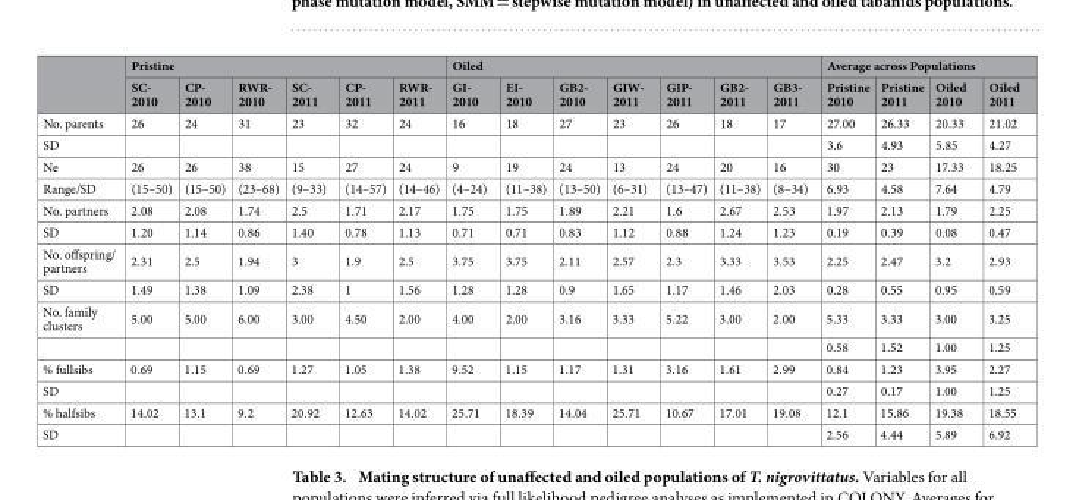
<table><thead><tr><td rowspan="2"></td><td colspan="6">Pristine</td><td colspan="7">Oiled</td><td colspan="4">Average across Populations</td></tr><tr><td>SC- 2010</td><td>CP- 2010</td><td>RWR- 2010</td><td>SC- 2011</td><td>CP- 2011</td><td>RWR- 2011</td><td>GI- 2010</td><td>EI- 2010</td><td>GB2- 2010</td><td>GIW- 2011</td><td>GIP- 2011</td><td>GB2- 2011</td><td>GB3- 2011</td><td>Pristine 2010</td><td>Pristine 2011</td><td>Oiled 2010</td><td>Oiled 2011</td></tr></thead><tbody><tr><td>No. parents</td><td>26</td><td>24</td><td>31</td><td>23</td><td>32</td><td>24</td><td>16</td><td>18</td><td>27</td><td>23</td><td>26</td><td>18</td><td>17</td><td>27.00</td><td>26.33</td><td>20.33</td><td>21.02</td></tr><tr><td>SD</td><td></td><td></td><td></td><td></td><td></td><td></td><td></td><td></td><td></td><td></td><td></td><td></td><td></td><td>3.6</td><td>4.93</td><td>5.85</td><td>4.27</td></tr><tr><td>N<sub>e</sub></td><td>26</td><td>26</td><td>38</td><td>15</td><td>27</td><td>24</td><td>9</td><td>19</td><td>24</td><td>13</td><td>24</td><td>20</td><td>16</td><td>30</td><td>23</td><td>17.33</td><td>18.25</td></tr><tr><td>Range/SD</td><td>(15–50)</td><td>(15–50)</td><td>(23–68)</td><td>(9–33)</td><td>(14–57)</td><td>(14–46)</td><td>(4–24)</td><td>(11–38)</td><td>(13–50)</td><td>(6–31)</td><td>(13–47)</td><td>(11–38)</td><td>(8–34)</td><td>6.93</td><td>4.58</td><td>7.64</td><td>4.79</td></tr><tr><td>No. partners</td><td>2.08</td><td>2.08</td><td>1.74</td><td>2.5</td><td>1.71</td><td>2.17</td><td>1.75</td><td>1.75</td><td>1.89</td><td>2.21</td><td>1.6</td><td>2.67</td><td>2.53</td><td>1.97</td><td>2.13</td><td>1.79</td><td>2.25</td></tr><tr><td>SD</td><td>1.20</td><td>1.14</td><td>0.86</td><td>1.40</td><td>0.78</td><td>1.13</td><td>0.71</td><td>0.71</td><td>0.83</td><td>1.12</td><td>0.88</td><td>1.24</td><td>1.23</td><td>0.19</td><td>0.39</td><td>0.08</td><td>0.47</td></tr><tr><td>No. offspring/ partners</td><td>2.31</td><td>2.5</td><td>1.94</td><td>3</td><td>1.9</td><td>2.5</td><td>3.75</td><td>3.75</td><td>2.11</td><td>2.57</td><td>2.3</td><td>3.33</td><td>3.53</td><td>2.25</td><td>2.47</td><td>3.2</td><td>2.93</td></tr><tr><td>SD</td><td>1.49</td><td>1.38</td><td>1.09</td><td>2.38</td><td>1</td><td>1.56</td><td>1.28</td><td>1.28</td><td>0.9</td><td>1.65</td><td>1.17</td><td>1.46</td><td>2.03</td><td>0.28</td><td>0.55</td><td>0.95</td><td>0.59</td></tr><tr><td rowspan="2">No. family clusters</td><td>5.00</td><td>5.00</td><td>6.00</td><td>3.00</td><td>4.50</td><td>2.00</td><td>4.00</td><td>2.00</td><td>3.16</td><td>3.33</td><td>5.22</td><td>3.00</td><td>2.00</td><td>5.33</td><td>3.33</td><td>3.00</td><td>3.25</td></tr><tr><td></td><td></td><td></td><td></td><td></td><td></td><td></td><td></td><td></td><td></td><td></td><td></td><td></td><td>0.58</td><td>1.52</td><td>1.00</td><td>1.25</td></tr><tr><td>% fullsibs</td><td>0.69</td><td>1.15</td><td>0.69</td><td>1.27</td><td>1.05</td><td>1.38</td><td>9.52</td><td>1.15</td><td>1.17</td><td>1.31</td><td>3.16</td><td>1.61</td><td>2.99</td><td>0.84</td><td>1.23</td><td>3.95</td><td>2.27</td></tr><tr><td>SD</td><td></td><td></td><td></td><td></td><td></td><td></td><td></td><td></td><td></td><td></td><td></td><td></td><td></td><td>0.27</td><td>0.17</td><td>1.00</td><td>1.25</td></tr><tr><td>% halfsibs</td><td>14.02</td><td>13.1</td><td>9.2</td><td>20.92</td><td>12.63</td><td>14.02</td><td>25.71</td><td>18.39</td><td>14.04</td><td>25.71</td><td>10.67</td><td>17.01</td><td>19.08</td><td>12.1</td><td>15.86</td><td>19.38</td><td>18.55</td></tr><tr><td>SD</td><td></td><td></td><td></td><td></td><td></td><td></td><td></td><td></td><td></td><td></td><td></td><td></td><td></td><td>2.56</td><td>4.44</td><td>5.89</td><td>6.92</td></tr></tbody></table>